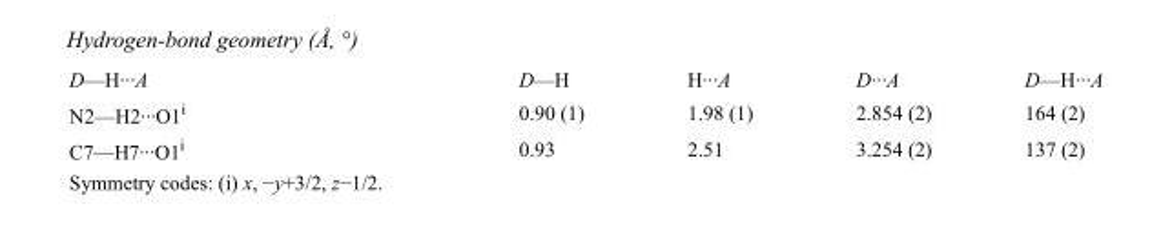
<table><tbody><tr><td>D—H···A</td><td>D—H</td><td>H···A</td><td>D···A</td><td>D—H···A</td></tr><tr><td>N2—H2···O1<sup>i</sup></td><td>0.90 (1)</td><td>1.98 (1)</td><td>2.854 (2)</td><td>164 (2)</td></tr><tr><td>C7—H7···O1<sup>i</sup></td><td>0.93</td><td>2.51</td><td>3.254 (2)</td><td>137 (2)</td></tr></tbody></table>